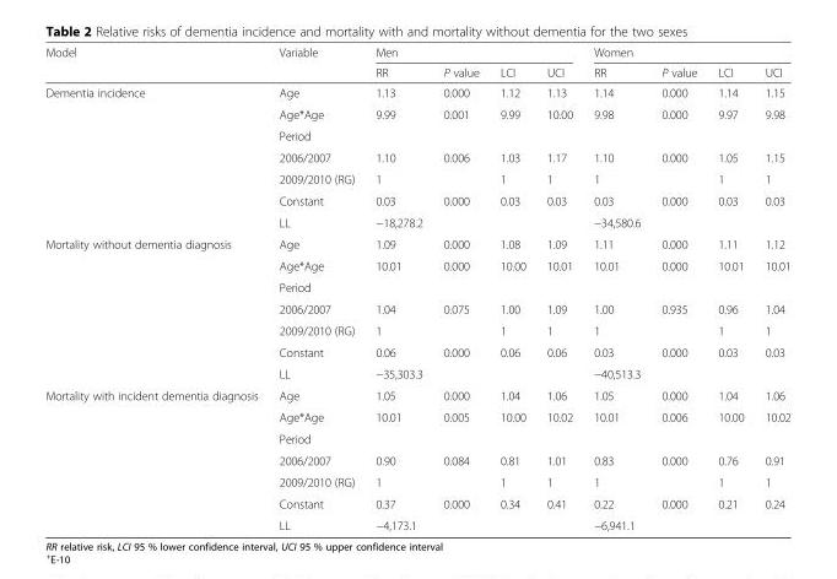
<table><thead><tr><td rowspan="2">Model</td><td rowspan="2">Variable</td><td colspan="4">Men</td><td colspan="4">Women</td></tr><tr><td>RR</td><td>P value</td><td>LCI</td><td>UCI</td><td>RR</td><td>P value</td><td>LCI</td><td>UCI</td></tr></thead><tbody><tr><td rowspan="7">Dementia incidence</td><td>Age</td><td>1.13</td><td>0.000</td><td>1.12</td><td>1.13</td><td>1.14</td><td>0.000</td><td>1.14</td><td>1.15</td></tr><tr><td>Age*Age</td><td>9.99</td><td>0.001</td><td>9.99</td><td>10.00</td><td>9.98</td><td>0.000</td><td>9.97</td><td>9.98</td></tr><tr><td>Period</td><td></td><td></td><td></td><td></td><td></td><td></td><td></td><td></td></tr><tr><td>2006/2007</td><td>1.10</td><td>0.006</td><td>1.03</td><td>1.17</td><td>1.10</td><td>0.000</td><td>1.05</td><td>1.15</td></tr><tr><td>2009/2010 (RG)</td><td>1</td><td></td><td>1</td><td>1</td><td>1</td><td></td><td>1</td><td>1</td></tr><tr><td>Constant</td><td>0.03</td><td>0.000</td><td>0.03</td><td>0.03</td><td>0.03</td><td>0.000</td><td>0.03</td><td>0.03</td></tr><tr><td>LL</td><td>−18,278.2</td><td></td><td></td><td></td><td>−34,580.6</td><td></td><td></td><td></td></tr><tr><td rowspan="7">Mortality without dementia diagnosis</td><td>Age</td><td>1.09</td><td>0.000</td><td>1.08</td><td>1.09</td><td>1.11</td><td>0.000</td><td>1.11</td><td>1.12</td></tr><tr><td>Age*Age</td><td>10.01</td><td>0.000</td><td>10.00</td><td>10.01</td><td>10.01</td><td>0.000</td><td>10.01</td><td>10.01</td></tr><tr><td>Period</td><td></td><td></td><td></td><td></td><td></td><td></td><td></td><td></td></tr><tr><td>2006/2007</td><td>1.04</td><td>0.075</td><td>1.00</td><td>1.09</td><td>1.00</td><td>0.935</td><td>0.96</td><td>1.04</td></tr><tr><td>2009/2010 (RG)</td><td>1</td><td></td><td>1</td><td>1</td><td>1</td><td></td><td>1</td><td>1</td></tr><tr><td>Constant</td><td>0.06</td><td>0.000</td><td>0.06</td><td>0.06</td><td>0.03</td><td>0.000</td><td>0.03</td><td>0.03</td></tr><tr><td>LL</td><td>−35,303.3</td><td></td><td></td><td></td><td>−40,513.3</td><td></td><td></td><td></td></tr><tr><td rowspan="7">Mortality with incident dementia diagnosis</td><td>Age</td><td>1.05</td><td>0.000</td><td>1.04</td><td>1.06</td><td>1.05</td><td>0.000</td><td>1.04</td><td>1.06</td></tr><tr><td>Age*Age</td><td>10.01</td><td>0.005</td><td>10.00</td><td>10.02</td><td>10.01</td><td>0.006</td><td>10.00</td><td>10.02</td></tr><tr><td>Period</td><td></td><td></td><td></td><td></td><td></td><td></td><td></td><td></td></tr><tr><td>2006/2007</td><td>0.90</td><td>0.084</td><td>0.81</td><td>1.01</td><td>0.83</td><td>0.000</td><td>0.76</td><td>0.91</td></tr><tr><td>2009/2010 (RG)</td><td>1</td><td></td><td>1</td><td>1</td><td>1</td><td></td><td>1</td><td>1</td></tr><tr><td>Constant</td><td>0.37</td><td>0.000</td><td>0.34</td><td>0.41</td><td>0.22</td><td>0.000</td><td>0.21</td><td>0.24</td></tr><tr><td>LL</td><td>−4,173.1</td><td></td><td></td><td></td><td>−6,941.1</td><td></td><td></td><td></td></tr></tbody></table>